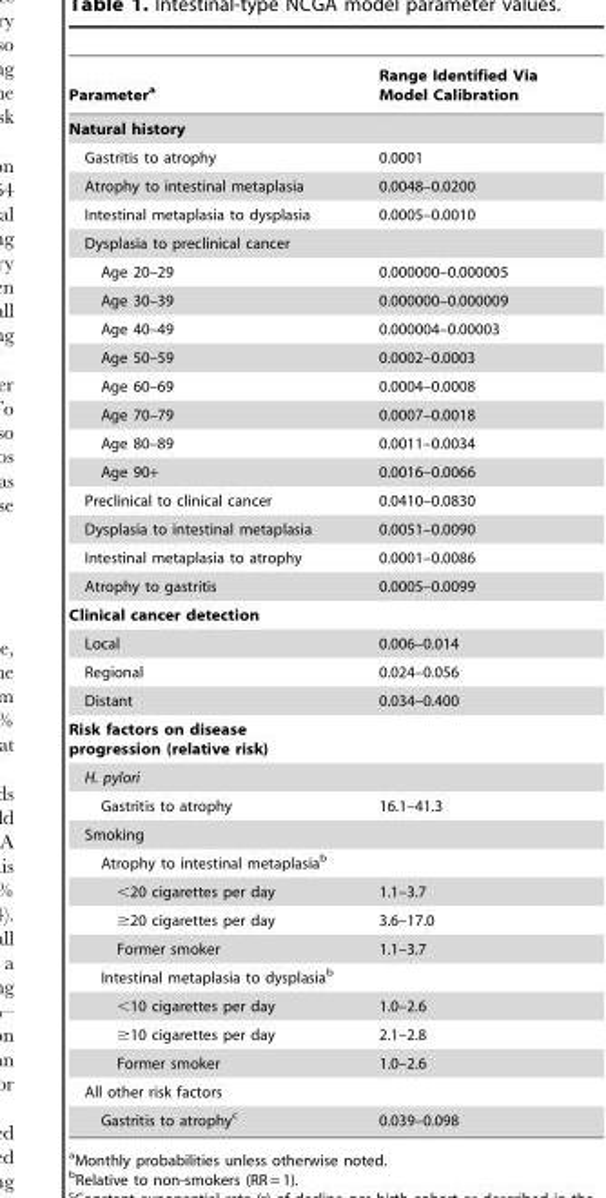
<table><thead><tr><td>Parameter<sup>a</sup></td><td>Range Identified Via Model Calibration</td></tr></thead><tbody><tr><td colspan="2">Natural history</td></tr><tr><td>Gastritis to atrophy</td><td>0.0001</td></tr><tr><td>Atrophy to intestinal metaplasia</td><td>0.0048–0.0200</td></tr><tr><td>Intestinal metaplasia to dysplasia</td><td>0.0005–0.0010</td></tr><tr><td colspan="2">Dysplasia to preclinical cancer</td></tr><tr><td>Age 20–29</td><td>0.000000–0.000005</td></tr><tr><td>Age 30–39</td><td>0.000000–0.000009</td></tr><tr><td>Age 40–49</td><td>0.000004–0.00003</td></tr><tr><td>Age 50–59</td><td>0.0002–0.0003</td></tr><tr><td>Age 60–69</td><td>0.0004–0.0008</td></tr><tr><td>Age 70–79</td><td>0.0007–0.0018</td></tr><tr><td>Age 80–89</td><td>0.0011–0.0034</td></tr><tr><td>Age 90+</td><td>0.0016–0.0066</td></tr><tr><td>Preclinical to clinical cancer</td><td>0.0410–0.0830</td></tr><tr><td>Dysplasia to intestinal metaplasia</td><td>0.0051–0.0090</td></tr><tr><td>Intestinal metaplasia to atrophy</td><td>0.0001–0.0086</td></tr><tr><td>Atrophy to gastritis</td><td>0.0005–0.0099</td></tr><tr><td colspan="2">Clinical cancer detection</td></tr><tr><td>Local</td><td>0.006–0.014</td></tr><tr><td>Regional</td><td>0.024–0.056</td></tr><tr><td>Distant</td><td>0.034–0.400</td></tr><tr><td colspan="2">Risk factors on disease progression (relative risk)</td></tr><tr><td colspan="2">H. pylori</td></tr><tr><td>Gastritis to atrophy</td><td>16.1–41.3</td></tr><tr><td colspan="2">Smoking</td></tr><tr><td colspan="2">Atrophy to intestinal metaplasia<sup>b</sup></td></tr><tr><td>&lt;20 cigarettes per day</td><td>1.1–3.7</td></tr><tr><td>≥20 cigarettes per day</td><td>3.6–17.0</td></tr><tr><td>Former smoker</td><td>1.1–3.7</td></tr><tr><td colspan="2">Intestinal metaplasia to dysplasia<sup>b</sup></td></tr><tr><td>&lt;10 cigarettes per day</td><td>1.0–2.6</td></tr><tr><td>≥10 cigarettes per day</td><td>2.1–2.8</td></tr><tr><td>Former smoker</td><td>1.0–2.6</td></tr><tr><td colspan="2">All other risk factors</td></tr><tr><td>Gastritis to atrophy<sup>c</sup></td><td>0.039–0.098</td></tr></tbody></table>